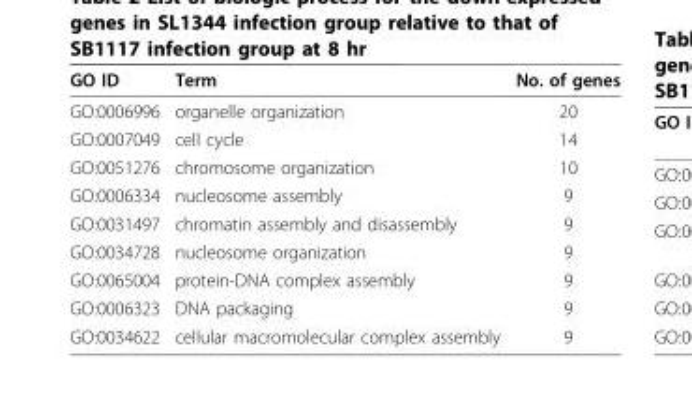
<table><thead><tr><td>GO ID</td><td>Term</td><td>No. of genes</td></tr></thead><tbody><tr><td>GO:0006996</td><td>organelle organization</td><td>20</td></tr><tr><td>GO:0007049</td><td>cell cycle</td><td>14</td></tr><tr><td>GO:0051276</td><td>chromosome organization</td><td>10</td></tr><tr><td>GO:0006334</td><td>nucleosome assembly</td><td>9</td></tr><tr><td>GO:0031497</td><td>chromatin assembly and disassembly</td><td>9</td></tr><tr><td>GO:0034728</td><td>nucleosome organization</td><td>9</td></tr><tr><td>GO:0065004</td><td>protein-DNA complex assembly</td><td>9</td></tr><tr><td>GO:0006323</td><td>DNA packaging</td><td>9</td></tr><tr><td>GO:0034622</td><td>cellular macromolecular complex assembly</td><td>9</td></tr></tbody></table>